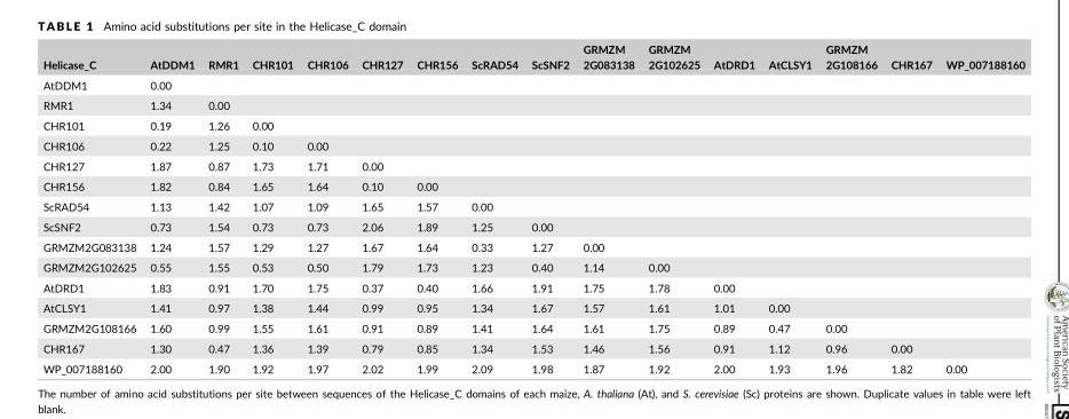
<table><thead><tr><td>Helicase_C</td><td>AtDDM1</td><td>RMR1</td><td>CHR101</td><td>CHR106</td><td>CHR127</td><td>CHR156</td><td>ScRAD54</td><td>ScSNF2</td><td>GRMZM 2G083138</td><td>GRMZM 2G102625</td><td>AtDRD1</td><td>AtCLSY1</td><td>GRMZM 2G108166</td><td>CHR167</td><td>WP_007188160</td></tr></thead><tbody><tr><td>AtDDM1</td><td>0.00</td><td></td><td></td><td></td><td></td><td></td><td></td><td></td><td></td><td></td><td></td><td></td><td></td><td></td><td></td></tr><tr><td>RMR1</td><td>1.34</td><td>0.00</td><td></td><td></td><td></td><td></td><td></td><td></td><td></td><td></td><td></td><td></td><td></td><td></td><td></td></tr><tr><td>CHR101</td><td>0.19</td><td>1.26</td><td>0.00</td><td></td><td></td><td></td><td></td><td></td><td></td><td></td><td></td><td></td><td></td><td></td><td></td></tr><tr><td>CHR106</td><td>0.22</td><td>1.25</td><td>0.10</td><td>0.00</td><td></td><td></td><td></td><td></td><td></td><td></td><td></td><td></td><td></td><td></td><td></td></tr><tr><td>CHR127</td><td>1.87</td><td>0.87</td><td>1.73</td><td>1.71</td><td>0.00</td><td></td><td></td><td></td><td></td><td></td><td></td><td></td><td></td><td></td><td></td></tr><tr><td>CHR156</td><td>1.82</td><td>0.84</td><td>1.65</td><td>1.64</td><td>0.10</td><td>0.00</td><td></td><td></td><td></td><td></td><td></td><td></td><td></td><td></td><td></td></tr><tr><td>ScRAD54</td><td>1.13</td><td>1.42</td><td>1.07</td><td>1.09</td><td>1.65</td><td>1.57</td><td>0.00</td><td></td><td></td><td></td><td></td><td></td><td></td><td></td><td></td></tr><tr><td>ScSNF2</td><td>0.73</td><td>1.54</td><td>0.73</td><td>0.73</td><td>2.06</td><td>1.89</td><td>1.25</td><td>0.00</td><td></td><td></td><td></td><td></td><td></td><td></td><td></td></tr><tr><td>GRMZM2G083138</td><td>1.24</td><td>1.57</td><td>1.29</td><td>1.27</td><td>1.67</td><td>1.64</td><td>0.33</td><td>1.27</td><td>0.00</td><td></td><td></td><td></td><td></td><td></td><td></td></tr><tr><td>GRMZM2G102625</td><td>0.55</td><td>1.55</td><td>0.53</td><td>0.50</td><td>1.79</td><td>1.73</td><td>1.23</td><td>0.40</td><td>1.14</td><td>0.00</td><td></td><td></td><td></td><td></td><td></td></tr><tr><td>AtDRD1</td><td>1.83</td><td>0.91</td><td>1.70</td><td>1.75</td><td>0.37</td><td>0.40</td><td>1.66</td><td>1.91</td><td>1.75</td><td>1.78</td><td>0.00</td><td></td><td></td><td></td><td></td></tr><tr><td>AtCLSY1</td><td>1.41</td><td>0.97</td><td>1.38</td><td>1.44</td><td>0.99</td><td>0.95</td><td>1.34</td><td>1.67</td><td>1.57</td><td>1.61</td><td>1.01</td><td>0.00</td><td></td><td></td><td></td></tr><tr><td>GRMZM2G108166</td><td>1.60</td><td>0.99</td><td>1.55</td><td>1.61</td><td>0.91</td><td>0.89</td><td>1.41</td><td>1.64</td><td>1.61</td><td>1.75</td><td>0.89</td><td>0.47</td><td>0.00</td><td></td><td></td></tr><tr><td>CHR167</td><td>1.30</td><td>0.47</td><td>1.36</td><td>1.39</td><td>0.79</td><td>0.85</td><td>1.34</td><td>1.53</td><td>1.46</td><td>1.56</td><td>0.91</td><td>1.12</td><td>0.96</td><td>0.00</td><td></td></tr><tr><td>WP_007188160</td><td>2.00</td><td>1.90</td><td>1.92</td><td>1.97</td><td>2.02</td><td>1.99</td><td>2.09</td><td>1.98</td><td>1.87</td><td>1.92</td><td>2.00</td><td>1.93</td><td>1.96</td><td>1.82</td><td>0.00</td></tr></tbody></table>